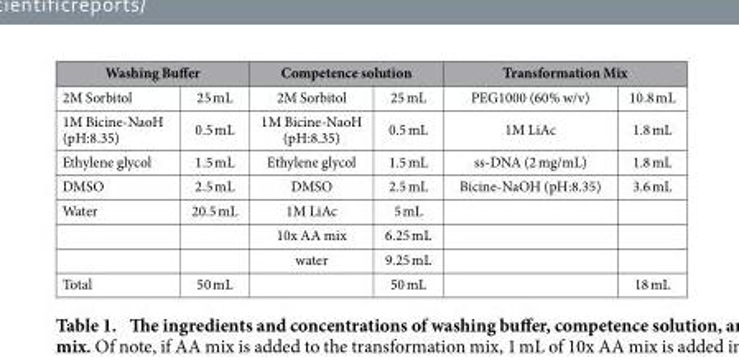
<table><thead><tr><td colspan="2">Washing Buffer</td><td colspan="2">Competence solution</td><td colspan="2">Transformation Mix</td></tr><tr><td>2M Sorbitol</td><td>25 mL</td><td>2M Sorbitol</td><td>25 mL</td><td>PEG1000 (60% w/v)</td><td>10.8 mL</td></tr></thead><tbody><tr><td>1M Bicine-NaoH (pH:8.35)</td><td>0.5 mL</td><td>1M Bicine-NaoH (pH:8.35)</td><td>0.5 mL</td><td>1M LiAc</td><td>1.8 mL</td></tr><tr><td>Ethylene glycol</td><td>1.5 mL</td><td>Ethylene glycol</td><td>1.5 mL</td><td>ss-DNA (2 mg/mL)</td><td>1.8 mL</td></tr><tr><td>DMSO</td><td>2.5 mL</td><td>DMSO</td><td>2.5 mL</td><td>Bicine-NaOH (pH:8.35)</td><td>3.6 mL</td></tr><tr><td rowspan="3">Water</td><td>20.5 mL</td><td>1M LiAc</td><td>5 mL</td><td></td><td></td></tr><tr><td></td><td>10x AA mix</td><td>6.25 mL</td><td></td><td></td></tr><tr><td></td><td>water</td><td>9.25 mL</td><td></td><td></td></tr><tr><td>Total</td><td>50 mL</td><td></td><td>50 mL</td><td></td><td>18 mL</td></tr></tbody></table>